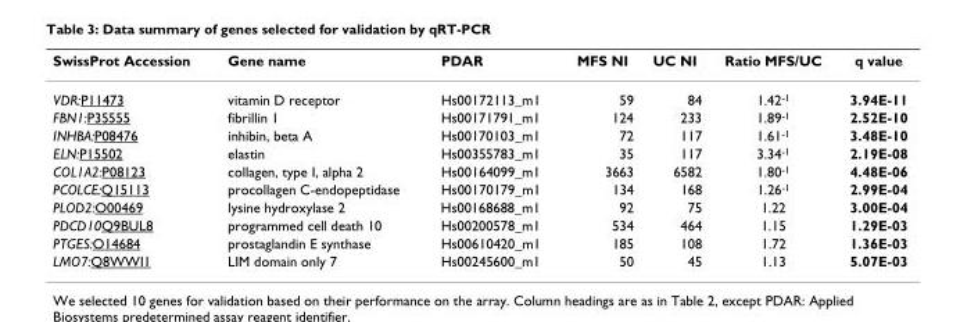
<table><thead><tr><td>SwissProt Accession</td><td>Gene name</td><td>PDAR</td><td>MFS NI</td><td>UC NI</td><td>Ratio MFS/UC</td><td>q value</td></tr></thead><tbody><tr><td>VDR:P11473</td><td>vitamin D receptor</td><td>Hs00172113_m1</td><td>59</td><td>84</td><td>1.42<sup>-1</sup></td><td>3.94E-11</td></tr><tr><td>FBN1:P35555</td><td>fibrillin 1</td><td>Hs00171791_m1</td><td>124</td><td>233</td><td>1.89<sup>-1</sup></td><td>2.52E-10</td></tr><tr><td>INHBA:P08476</td><td>inhibin, beta A</td><td>Hs00170103_m1</td><td>72</td><td>117</td><td>1.61<sup>-1</sup></td><td>3.48E-10</td></tr><tr><td>ELN:P15502</td><td>elastin</td><td>Hs00355783_m1</td><td>35</td><td>117</td><td>3.34<sup>-1</sup></td><td>2.19E-08</td></tr><tr><td>COL1A2:P08123</td><td>collagen, type I, alpha 2</td><td>Hs00164099_m1</td><td>3663</td><td>6582</td><td>1.80<sup>-1</sup></td><td>4.48E-06</td></tr><tr><td>PCOLCE:Q15113</td><td>procollagen C-endopeptidase</td><td>Hs00170179_m1</td><td>134</td><td>168</td><td>1.26<sup>-1</sup></td><td>2.99E-04</td></tr><tr><td>PLOD2:O00469</td><td>lysine hydroxylase 2</td><td>Hs00168688_m1</td><td>92</td><td>75</td><td>1.22</td><td>3.00E-04</td></tr><tr><td>PDCD10Q9BUL8</td><td>programmed cell death 10</td><td>Hs00200578_m1</td><td>534</td><td>464</td><td>1.15</td><td>1.29E-03</td></tr><tr><td>PTGES:O14684</td><td>prostaglandin E synthase</td><td>Hs00610420_m1</td><td>185</td><td>108</td><td>1.72</td><td>1.36E-03</td></tr><tr><td>LMO7:Q8WWI1</td><td>LIM domain only 7</td><td>Hs00245600_m1</td><td>50</td><td>45</td><td>1.13</td><td>5.07E-03</td></tr></tbody></table>